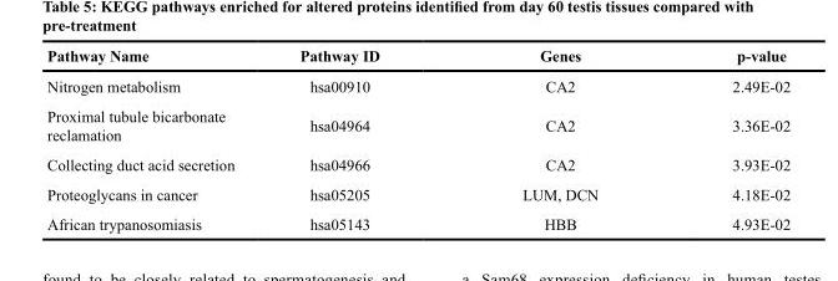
<table><thead><tr><td>Pathway Name</td><td>Pathway ID</td><td>Genes</td><td>p-value</td></tr></thead><tbody><tr><td>Nitrogen metabolism</td><td>hsa00910</td><td>CA2</td><td>2.49E-02</td></tr><tr><td>Proximal tubule bicarbonate reclamation</td><td>hsa04964</td><td>CA2</td><td>3.36E-02</td></tr><tr><td>Collecting duct acid secretion</td><td>hsa04966</td><td>CA2</td><td>3.93E-02</td></tr><tr><td>Proteoglycans in cancer</td><td>hsa05205</td><td>LUM, DCN</td><td>4.18E-02</td></tr><tr><td>African trypanosomiasis</td><td>hsa05143</td><td>HBB</td><td>4.93E-02</td></tr></tbody></table>